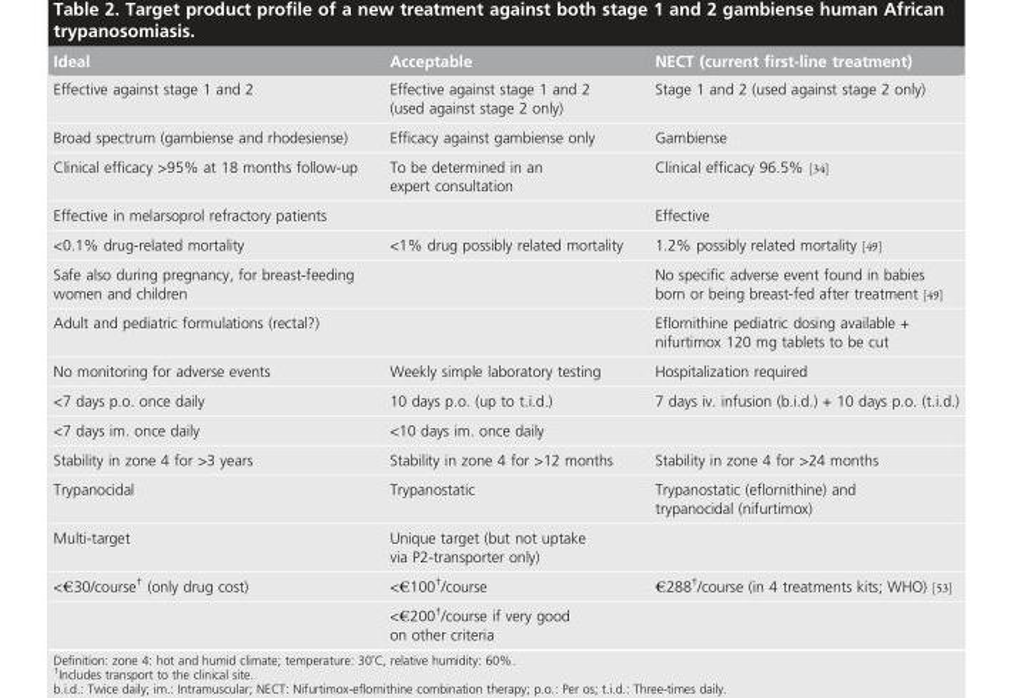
<table><thead><tr><td>Ideal</td><td>Acceptable</td><td>NECT (current first-line treatment)</td></tr></thead><tbody><tr><td>Effective against stage 1 and 2</td><td>Effective against stage 1 and 2 (used against stage 2 only)</td><td>Stage 1 and 2 (used against stage 2 only)</td></tr><tr><td>Broad spectrum (gambiense and rhodesiense)</td><td>Efficacy against gambiense only</td><td>Gambiense</td></tr><tr><td>Clinical efficacy &gt;95% at 18 months follow-up</td><td>To be determined in an expert consultation</td><td>Clinical efficacy 96.5% [34]</td></tr><tr><td>Effective in melarsoprol refractory patients</td><td></td><td>Effective</td></tr><tr><td>&lt;0.1% drug-related mortality</td><td>&lt;1% drug possibly related mortality</td><td>1.2% possibly related mortality [49]</td></tr><tr><td>Safe also during pregnancy, for breast-feeding women and children</td><td></td><td>No specific adverse event found in babies born or being breast-fed after treatment [49]</td></tr><tr><td>Adult and pediatric formulations (rectal?)</td><td></td><td>Eflornithine pediatric dosing available + nifurtimox 120 mg tablets to be cut</td></tr><tr><td>No monitoring for adverse events</td><td>Weekly simple laboratory testing</td><td>Hospitalization required</td></tr><tr><td>&lt;7 days p.o. once daily</td><td>10 days p.o. (up to t.i.d.)</td><td>7 days iv. infusion (b.i.d.) + 10 days p.o. (t.i.d.)</td></tr><tr><td>&lt;7 days im. once daily</td><td>&lt;10 days im. once daily</td><td></td></tr><tr><td>Stability in zone 4 for &gt;3 years</td><td>Stability in zone 4 for &gt;12 months</td><td>Stability in zone 4 for &gt;24 months</td></tr><tr><td>Trypanocidal</td><td>Trypanostatic</td><td>Trypanostatic (eflornithine) and trypanocidal (nifurtimox)</td></tr><tr><td>Multi-target</td><td>Unique target (but not uptake via P2-transporter only)</td><td></td></tr><tr><td rowspan="2">&lt;€30/course<sup>†</sup> (only drug cost)</td><td>&lt;€100<sup>†</sup>/course</td><td>€288<sup>†</sup>/course (in 4 treatments kits; WHO) [53]</td></tr><tr><td>&lt;€200<sup>†</sup>/course if very good on other criteria</td><td></td></tr></tbody></table>